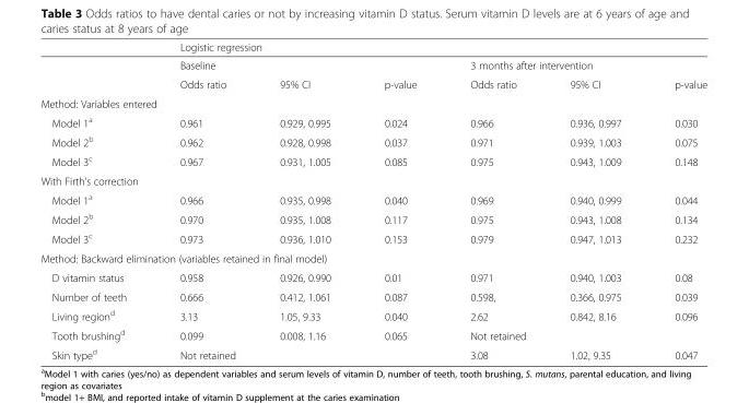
<table><thead><tr><td rowspan="3"></td><td colspan="6">Logistic regression</td></tr><tr><td colspan="3">Baseline</td><td colspan="3">3 months after intervention</td></tr><tr><td>Odds ratio</td><td>95% CI</td><td>p-value</td><td>Odds ratio</td><td>95% CI</td><td>p-value</td></tr></thead><tbody><tr><td colspan="7">Method: Variables entered</td></tr><tr><td>Model 1<sup>a</sup></td><td>0.961</td><td>0.929, 0.995</td><td>0.024</td><td>0.966</td><td>0.936, 0.997</td><td>0.030</td></tr><tr><td>Model 2<sup>b</sup></td><td>0.962</td><td>0.928, 0.998</td><td>0.037</td><td>0.971</td><td>0.939, 1.003</td><td>0.075</td></tr><tr><td>Model 3<sup>c</sup></td><td>0.967</td><td>0.931, 1.005</td><td>0.085</td><td>0.975</td><td>0.943, 1.009</td><td>0.148</td></tr><tr><td colspan="7">With Firth’s correction</td></tr><tr><td>Model 1<sup>a</sup></td><td>0.966</td><td>0.935, 0.998</td><td>0.040</td><td>0.969</td><td>0.940, 0.999</td><td>0.044</td></tr><tr><td>Model 2<sup>b</sup></td><td>0.970</td><td>0.935, 1.008</td><td>0.117</td><td>0.975</td><td>0.943, 1.008</td><td>0.134</td></tr><tr><td>Model 3<sup>c</sup></td><td>0.973</td><td>0.936, 1.010</td><td>0.153</td><td>0.979</td><td>0.947, 1.013</td><td>0.232</td></tr><tr><td colspan="7">Method: Backward elimination (variables retained in final model)</td></tr><tr><td>D vitamin status</td><td>0.958</td><td>0.926, 0.990</td><td>0.01</td><td>0.971</td><td>0.940, 1.003</td><td>0.08</td></tr><tr><td>Number of teeth</td><td>0.666</td><td>0.412, 1.061</td><td>0.087</td><td>0.598,</td><td>0.366, 0.975</td><td>0.039</td></tr><tr><td>Living region<sup>d</sup></td><td>3.13</td><td>1.05, 9.33</td><td>0.040</td><td>2.62</td><td>0.842, 8.16</td><td>0.096</td></tr><tr><td>Tooth brushing<sup>d</sup></td><td>0.099</td><td>0.008, 1.16</td><td>0.065</td><td colspan="3">Not retained</td></tr><tr><td>Skin type<sup>d</sup></td><td colspan="3">Not retained</td><td>3.08</td><td>1.02, 9.35</td><td>0.047</td></tr></tbody></table>